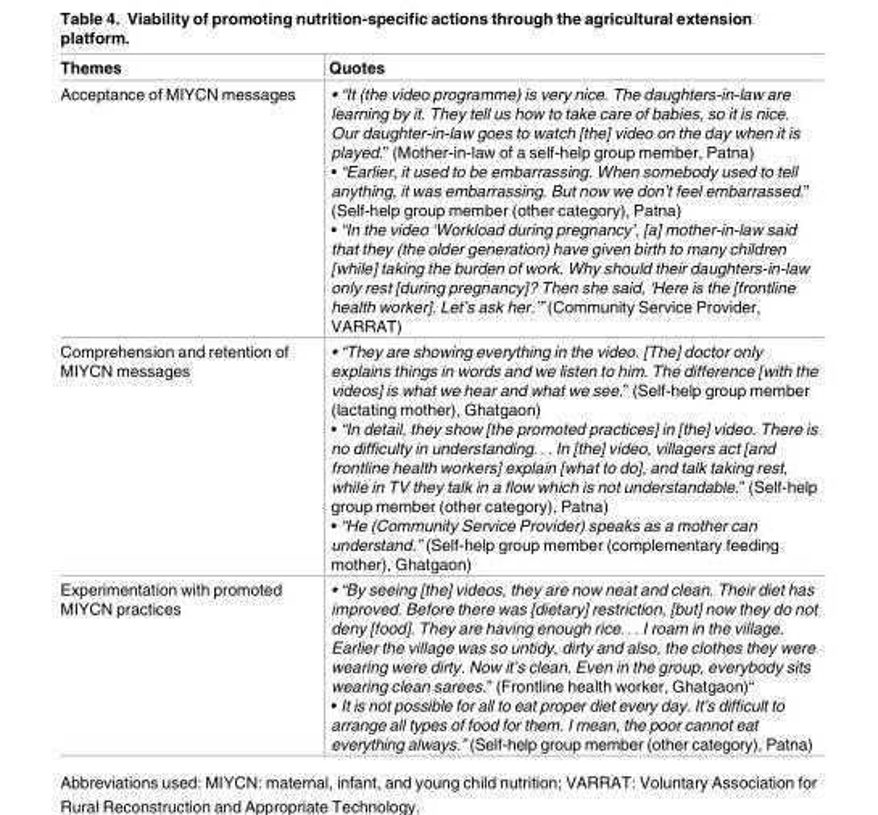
<table><thead><tr><td>Themes</td><td>Quotes</td></tr></thead><tbody><tr><td>Acceptance of MIYCN messages</td><td>• “It (the video programme) is very nice. The daughters-in-law are learning by it. They tell us how to take care of babies, so it is nice. Our daughter-in-law goes to watch [the] video on the day when it is played.” (Mother-in-law of a self-help group member, Patna) • “Earlier, it used to be embarrassing. When somebody used to tell anything, it was embarrassing. But now we don’t feel embarrassed.” (Self-help group member (other category), Patna) • “In the video ‘Workload during pregnancy’, [a] mother-in-law said that they (the older generation) have given birth to many children [while] taking the burden of work. Why should their daughters-in-law only rest [during pregnancy]? Then she said, ‘Here is the [frontline health worker]. Let’s ask her.’” (Community Service Provider, VARRAT)</td></tr><tr><td>Comprehension and retention of MIYCN messages</td><td>• “They are showing everything in the video. [The] doctor only explains things in words and we listen to him. The difference [with the videos] is what we hear and what we see.” (Self-help group member (lactating mother), Ghatgaon) • “In detail, they show [the promoted practices] in [the] video. There is no difficulty in understanding. . . In [the] video, villagers act [and frontline health workers] explain [what to do], and talk taking rest, while in TV they talk in a flow which is not understandable.” (Self-help group member (other category), Patna) • “He (Community Service Provider) speaks as a mother can understand.” (Self-help group member (complementary feeding mother), Ghatgaon)</td></tr><tr><td>Experimentation with promoted MIYCN practices</td><td>• “By seeing [the] videos, they are now neat and clean. Their diet has improved. Before there was [dietary] restriction, [but] now they do not deny [food]. They are having enough rice. . . I roam in the village. Earlier the village was so untidy, dirty and also, the clothes they were wearing were dirty. Now it’s clean. Even in the group, everybody sits wearing clean sarees.” (Frontline health worker, Ghatgaon)“ • It is not possible for all to eat proper diet every day. It’s difficult to arrange all types of food for them. I mean, the poor cannot eat everything always.” (Self-help group member (other category), Patna)</td></tr></tbody></table>